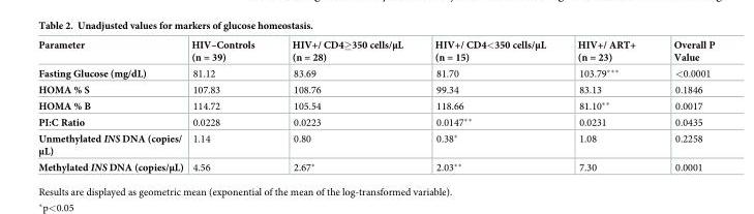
<table><thead><tr><td>Parameter</td><td>HIV–Controls (n = 39)</td><td>HIV+/ CD4≥350 cells/μL (n = 28)</td><td>HIV+/ CD4&lt;350 cells/μL (n = 15)</td><td>HIV+/ ART+ (n = 23)</td><td>Overall P Value</td></tr></thead><tbody><tr><td>Fasting Glucose (mg/dL)</td><td>81.12</td><td>83.69</td><td>81.70</td><td>103.79***</td><td>&lt;0.0001</td></tr><tr><td>HOMA % S</td><td>107.83</td><td>108.76</td><td>99.34</td><td>83.13</td><td>0.1846</td></tr><tr><td>HOMA % B</td><td>114.72</td><td>105.54</td><td>118.66</td><td>81.10**</td><td>0.0017</td></tr><tr><td>PI:C Ratio</td><td>0.0228</td><td>0.0223</td><td>0.0147**</td><td>0.0231</td><td>0.0435</td></tr><tr><td>Unmethylated INS DNA (copies/ μL)</td><td>1.14</td><td>0.80</td><td>0.38*</td><td>1.08</td><td>0.2258</td></tr><tr><td>Methylated INS DNA (copies/μL)</td><td>4.56</td><td>2.67*</td><td>2.03**</td><td>7.30</td><td>0.0001</td></tr></tbody></table>